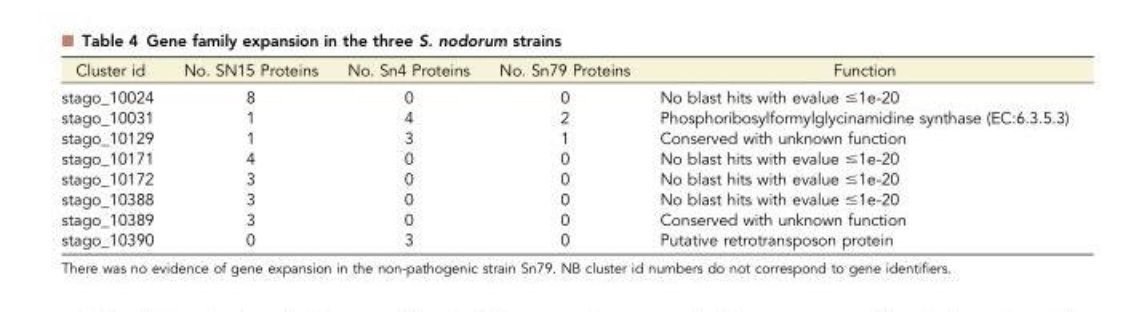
<table><thead><tr><td>Cluster id</td><td>No. SN15 Proteins</td><td>No. Sn4 Proteins</td><td>No. Sn79 Proteins</td><td>Function</td></tr></thead><tbody><tr><td>stago_10024</td><td>8</td><td>0</td><td>0</td><td>No blast hits with evalue ≤1e-20</td></tr><tr><td>stago_10031</td><td>1</td><td>4</td><td>2</td><td>Phosphoribosylformylglycinamidine synthase (EC:6.3.5.3)</td></tr><tr><td>stago_10129</td><td>1</td><td>3</td><td>1</td><td>Conserved with unknown function</td></tr><tr><td>stago_10171</td><td>4</td><td>0</td><td>0</td><td>No blast hits with evalue ≤1e-20</td></tr><tr><td>stago_10172</td><td>3</td><td>0</td><td>0</td><td>No blast hits with evalue ≤1e-20</td></tr><tr><td>stago_10388</td><td>3</td><td>0</td><td>0</td><td>No blast hits with evalue ≤1e-20</td></tr><tr><td>stago_10389</td><td>3</td><td>0</td><td>0</td><td>Conserved with unknown function</td></tr><tr><td>stago_10390</td><td>0</td><td>3</td><td>0</td><td>Putative retrotransposon protein</td></tr></tbody></table>